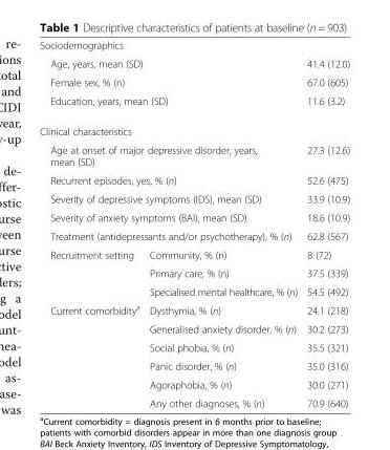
<table><tbody><tr><td colspan="3">Sociodemographics</td></tr><tr><td colspan="2">Age, years, mean (SD)</td><td>41.4 (12.0)</td></tr><tr><td colspan="2">Female sex, % (n)</td><td>67.0 (605)</td></tr><tr><td colspan="2">Education, years, mean (SD)</td><td>11.6 (3.2)</td></tr><tr><td colspan="3">Clinical characteristics</td></tr><tr><td colspan="2">Age at onset of major depressive disorder, years, mean (SD)</td><td>27.3 (12.6)</td></tr><tr><td colspan="2">Recurrent episodes, yes, % (n)</td><td>52.6 (475)</td></tr><tr><td colspan="2">Severity of depressive symptoms (IDS), mean (SD)</td><td>33.9 (10.9)</td></tr><tr><td colspan="2">Severity of anxiety symptoms (BAI), mean (SD)</td><td>18.6 (10.9)</td></tr><tr><td colspan="2">Treatment (antidepressants and/or psychotherapy), % (n)</td><td>62.8 (567)</td></tr><tr><td rowspan="3">Recruitment setting</td><td>Community, % (n)</td><td>8 (72)</td></tr><tr><td>Primary care, % (n)</td><td>37.5 (339)</td></tr><tr><td>Specialised mental healthcare, % (n)</td><td>54.5 (492)</td></tr><tr><td rowspan="6">Current comorbidity<sup>a</sup></td><td>Dysthymia, % (n)</td><td>24.1 (218)</td></tr><tr><td>Generalised anxiety disorder, % (n)</td><td>30.2 (273)</td></tr><tr><td>Social phobia, % (n)</td><td>35.5 (321)</td></tr><tr><td>Panic disorder, % (n)</td><td>35.0 (316)</td></tr><tr><td>Agoraphobia, % (n)</td><td>30.0 (271)</td></tr><tr><td>Any other diagnoses, % (n)</td><td>70.9 (640)</td></tr></tbody></table>